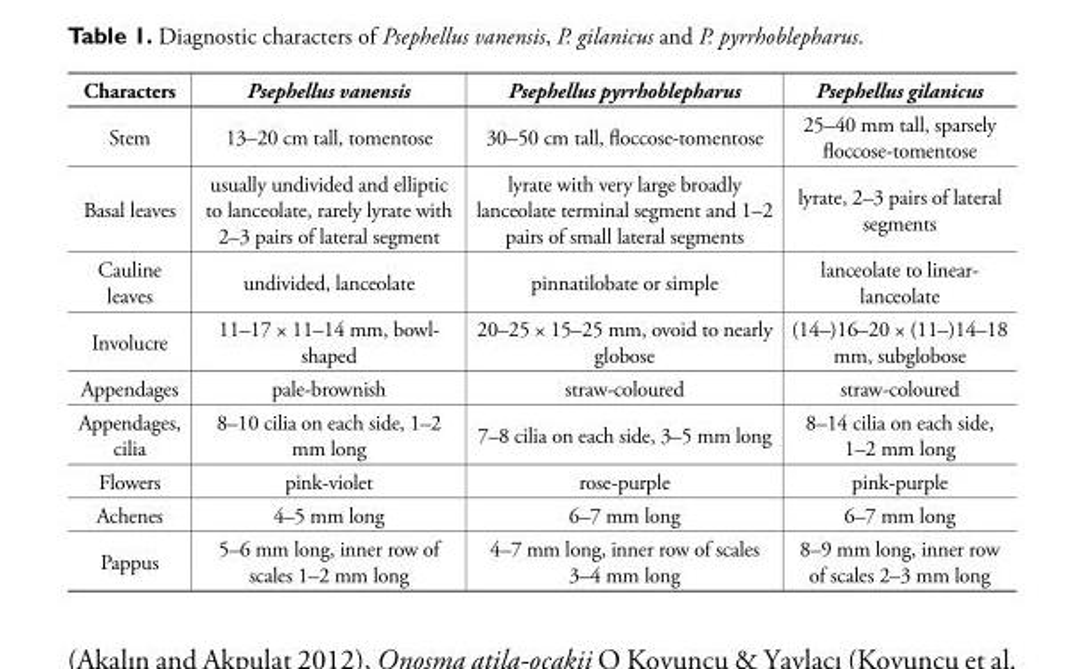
<table><thead><tr><td>Characters</td><td>Psephellus vanensis</td><td>Psephellus pyrrhoblepharus</td><td>Psephellus gilanicus</td></tr></thead><tbody><tr><td>Stem</td><td>13–20 cm tall, tomentose</td><td>30–50 cm tall, fl occose-tomentose</td><td>25–40 mm tall, sparsely fl occose-tomentose</td></tr><tr><td>Basal leaves</td><td>usually undivided and elliptic to lanceolate, rarely lyrate with 2–3 pairs of lateral segment</td><td>lyrate with very large broadly lanceolate terminal segment and 1–2 pairs of small lateral segments</td><td>lyrate, 2–3 pairs of lateral segments</td></tr><tr><td>Cauline leaves</td><td>undivided, lanceolate</td><td>pinnatilobate or simple</td><td>lanceolate to linear- lanceolate</td></tr><tr><td>Involucre</td><td>11–17 × 11–14 mm, bowl- shaped</td><td>20–25 × 15–25 mm, ovoid to nearly globose</td><td>(14–)16–20 × (11–)14–18 mm, subglobose</td></tr><tr><td>Appendages</td><td>pale-brownish</td><td>straw-coloured</td><td>straw-coloured</td></tr><tr><td>Appendages, cilia</td><td>8–10 cilia on each side, 1–2 mm long</td><td>7–8 cilia on each side, 3–5 mm long</td><td>8–14 cilia on each side, 1–2 mm long</td></tr><tr><td>Flowers</td><td>pink-violet</td><td>rose-purple</td><td>pink-purple</td></tr><tr><td>Achenes</td><td>4–5 mm long</td><td>6–7 mm long</td><td>6–7 mm long</td></tr><tr><td>Pappus</td><td>5–6 mm long, inner row of scales 1–2 mm long</td><td>4–7 mm long, inner row of scales 3–4 mm long</td><td>8–9 mm long, inner row of scales 2–3 mm long</td></tr></tbody></table>